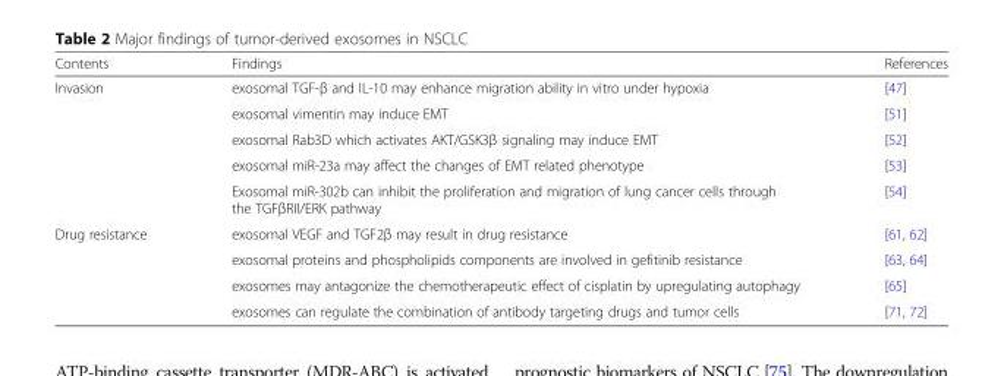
<table><thead><tr><td>Contents</td><td>Findings</td><td>References</td></tr></thead><tbody><tr><td rowspan="5">Invasion</td><td>exosomal TGF-β and IL-10 may enhance migration ability in vitro under hypoxia</td><td>[47]</td></tr><tr><td>exosomal vimentin may induce EMT</td><td>[51]</td></tr><tr><td>exosomal Rab3D which activates AKT/GSK3β signaling may induce EMT</td><td>[52]</td></tr><tr><td>exosomal miR-23a may affect the changes of EMT related phenotype</td><td>[53]</td></tr><tr><td>Exosomal miR-302b can inhibit the proliferation and migration of lung cancer cells through the TGFβRII/ERK pathway</td><td>[54]</td></tr><tr><td rowspan="4">Drug resistance</td><td>exosomal VEGF and TGF2β may result in drug resistance</td><td>[61, 62]</td></tr><tr><td>exosomal proteins and phospholipids components are involved in gefitinib resistance</td><td>[63, 64]</td></tr><tr><td>exosomes may antagonize the chemotherapeutic effect of cisplatin by upregulating autophagy</td><td>[65]</td></tr><tr><td>exosomes can regulate the combination of antibody targeting drugs and tumor cells</td><td>[71, 72]</td></tr></tbody></table>